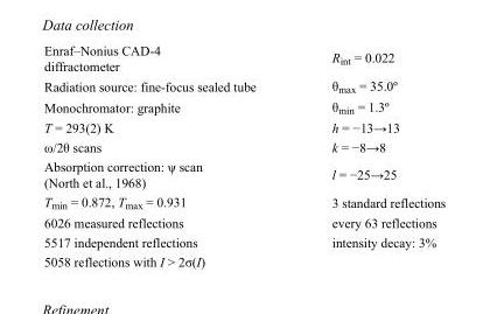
<table><tbody><tr><td>Enraf–Nonius CAD-4 diffractometer</td><td>R<sub>int</sub> = 0.022</td></tr><tr><td>Radiation source: fine-focus sealed tube</td><td>θ<sub>max</sub> = 35.0º</td></tr><tr><td>Monochromator: graphite</td><td>θ<sub>min</sub> = 1.3º</td></tr><tr><td>T = 293(2) K</td><td>h = −13→13</td></tr><tr><td>ω/2θ scans</td><td>k = −8→8</td></tr><tr><td>Absorption correction: ψ scan (North et al., 1968)</td><td>l = −25→25</td></tr><tr><td>T<sub>min</sub> = 0.872, T<sub>max</sub> = 0.931</td><td>3 standard reflections</td></tr><tr><td>6026 measured reflections</td><td>every 63 reflections</td></tr><tr><td>5517 independent reflections</td><td>intensity decay: 3%</td></tr><tr><td>5058 reflections with I &gt; 2σ(I)</td><td></td></tr></tbody></table>